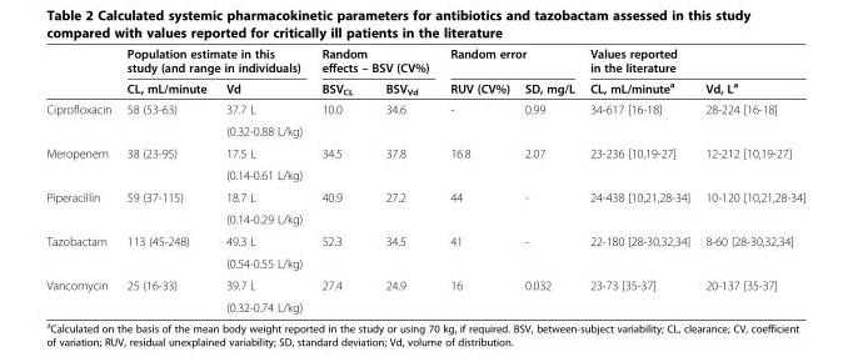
<table><thead><tr><td rowspan="2"></td><td colspan="2">Population estimate in this study (and range in individuals)</td><td colspan="2">Random effects – BSV (CV%)</td><td colspan="2">Random error</td><td colspan="2">Values reported in the literature</td></tr><tr><td>CL, mL/minute</td><td>Vd</td><td>BSV<sub>CL</sub></td><td>BSV<sub>Vd</sub></td><td>RUV (CV%)</td><td>SD, mg/L</td><td>CL, mL/minute<sup>a</sup></td><td>Vd, L<sup>a</sup></td></tr></thead><tbody><tr><td rowspan="2">Ciprofloxacin</td><td rowspan="2">58 (53-63)</td><td>37.7 L</td><td rowspan="2">10.0</td><td rowspan="2">34.6</td><td rowspan="2">-</td><td rowspan="2">0.99</td><td rowspan="2">34-617 [16-18]</td><td rowspan="2">28-224 [16-18]</td></tr><tr><td>(0.32-0.88 L/kg)</td></tr><tr><td rowspan="2">Meropenem</td><td rowspan="2">38 (23-95)</td><td>17.5 L</td><td rowspan="2">34.5</td><td rowspan="2">37.8</td><td rowspan="2">16.8</td><td rowspan="2">2.07</td><td rowspan="2">23-236 [10,19-27]</td><td rowspan="2">12-212 [10,19-27]</td></tr><tr><td>(0.14-0.61 L/kg)</td></tr><tr><td rowspan="2">Piperacillin</td><td rowspan="2">59 (37-115)</td><td>18.7 L</td><td rowspan="2">40.9</td><td rowspan="2">27.2</td><td rowspan="2">44</td><td rowspan="2">-</td><td rowspan="2">24-438 [10,21,28-34]</td><td rowspan="2">10-120 [10,21,28-34]</td></tr><tr><td>(0.14-0.29 L/kg)</td></tr><tr><td rowspan="2">Tazobactam</td><td rowspan="2">113 (45-248)</td><td>49.3 L</td><td rowspan="2">52.3</td><td rowspan="2">34.5</td><td rowspan="2">41</td><td rowspan="2">-</td><td rowspan="2">22-180 [28-30,32,34]</td><td rowspan="2">8-60 [28-30,32,34]</td></tr><tr><td>(0.54-0.55 L/kg)</td></tr><tr><td rowspan="2">Vancomycin</td><td rowspan="2">25 (16-33)</td><td>39.7 L</td><td rowspan="2">27.4</td><td rowspan="2">24.9</td><td rowspan="2">16</td><td rowspan="2">0.032</td><td rowspan="2">23-73 [35-37]</td><td rowspan="2">20-137 [35-37]</td></tr><tr><td>(0.32-0.74 L/kg)</td></tr></tbody></table>